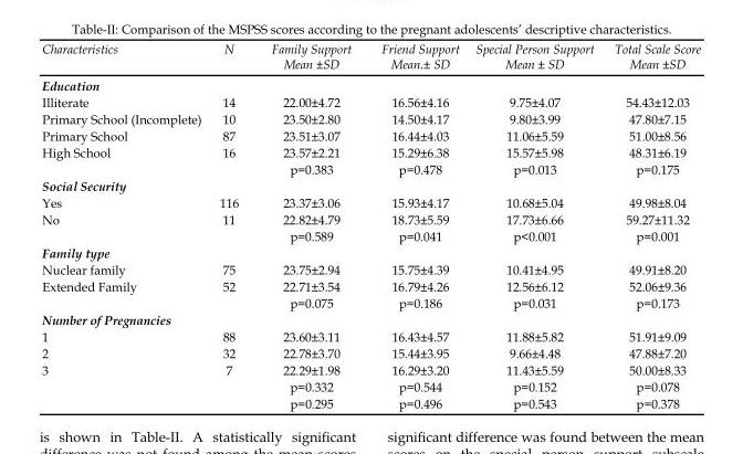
<table><thead><tr><td>Characteristics</td><td>N</td><td>Family Support Mean ±SD</td><td>Friend Support Mean.± SD</td><td>Special Person Support Mean ± SD</td><td>Total Scale Score Mean ±SD</td></tr></thead><tbody><tr><td colspan="6">Education</td></tr><tr><td>Illiterate</td><td>14</td><td>22.00±4.72</td><td>16.56±4.16</td><td>9.75±4.07</td><td>54.43±12.03</td></tr><tr><td>Primary School (Incomplete)</td><td>10</td><td>23.50±2.80</td><td>14.50±4.17</td><td>9.80±3.99</td><td>47.80±7.15</td></tr><tr><td>Primary School</td><td>87</td><td>23.51±3.07</td><td>16.44±4.03</td><td>11.06±5.59</td><td>51.00±8.56</td></tr><tr><td rowspan="2">High School</td><td>16</td><td>23.57±2.21</td><td>15.29±6.38</td><td>15.57±5.98</td><td>48.31±6.19</td></tr><tr><td></td><td>p=0.383</td><td>p=0.478</td><td>p=0.013</td><td>p=0.175</td></tr><tr><td colspan="6">Social Security</td></tr><tr><td>Yes</td><td>116</td><td>23.37±3.06</td><td>15.93±4.17</td><td>10.68±5.04</td><td>49.98±8.04</td></tr><tr><td rowspan="2">No</td><td>11</td><td>22.82±4.79</td><td>18.73±5.59</td><td>17.73±6.66</td><td>59.27±11.32</td></tr><tr><td></td><td>p=0.589</td><td>p=0.041</td><td>p&lt;0.001</td><td>p=0.001</td></tr><tr><td colspan="6">Family type</td></tr><tr><td>Nuclear family</td><td>75</td><td>23.75±2.94</td><td>15.75±4.39</td><td>10.41±4.95</td><td>49.91±8.20</td></tr><tr><td rowspan="2">Extended Family</td><td>52</td><td>22.71±3.54</td><td>16.79±4.26</td><td>12.56±6.12</td><td>52.06±9.36</td></tr><tr><td></td><td>p=0.075</td><td>p=0.186</td><td>p=0.031</td><td>p=0.173</td></tr><tr><td colspan="6">Number of Pregnancies</td></tr><tr><td>1</td><td>88</td><td>23.60±3.11</td><td>16.43±4.57</td><td>11.88±5.82</td><td>51.91±9.09</td></tr><tr><td>2</td><td>32</td><td>22.78±3.70</td><td>15.44±3.95</td><td>9.66±4.48</td><td>47.88±7.20</td></tr><tr><td rowspan="3">3</td><td>7</td><td>22.29±1.98</td><td>16.29±3.20</td><td>11.43±5.59</td><td>50.00±8.33</td></tr><tr><td></td><td>p=0.332</td><td>p=0.544</td><td>p=0.152</td><td>p=0.078</td></tr><tr><td></td><td>p=0.295</td><td>p=0.496</td><td>p=0.543</td><td>p=0.378</td></tr></tbody></table>